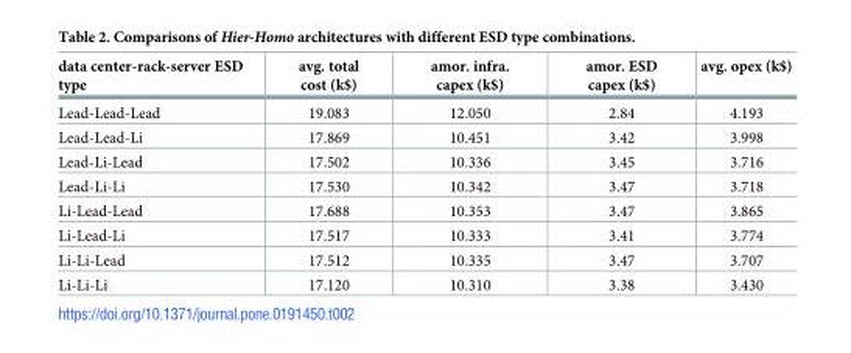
<table><thead><tr><td>data center-rack-server ESD type</td><td>avg. total cost (k$)</td><td>amor. infra. capex (k$)</td><td>amor. ESD capex (k$)</td><td>avg. opex (k$)</td></tr></thead><tbody><tr><td>Lead-Lead-Lead</td><td>19.083</td><td>12.050</td><td>2.84</td><td>4.193</td></tr><tr><td>Lead-Lead-Li</td><td>17.869</td><td>10.451</td><td>3.42</td><td>3.998</td></tr><tr><td>Lead-Li-Lead</td><td>17.502</td><td>10.336</td><td>3.45</td><td>3.716</td></tr><tr><td>Lead-Li-Li</td><td>17.530</td><td>10.342</td><td>3.47</td><td>3.718</td></tr><tr><td>Li-Lead-Lead</td><td>17.688</td><td>10.353</td><td>3.47</td><td>3.865</td></tr><tr><td>Li-Lead-Li</td><td>17.517</td><td>10.333</td><td>3.41</td><td>3.774</td></tr><tr><td>Li-Li-Lead</td><td>17.512</td><td>10.335</td><td>3.47</td><td>3.707</td></tr><tr><td>Li-Li-Li</td><td>17.120</td><td>10.310</td><td>3.38</td><td>3.430</td></tr></tbody></table>